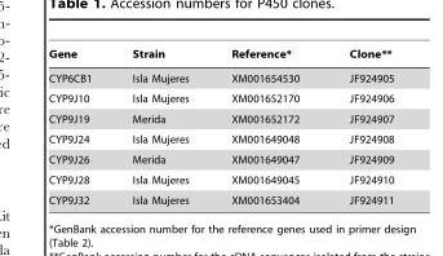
<table><thead><tr><td>Gene</td><td>Strain</td><td>Reference*</td><td>Clone**</td></tr></thead><tbody><tr><td>CYP6CB1</td><td>Isla Mujeres</td><td>XM001654530</td><td>JF924905</td></tr><tr><td>CYP9J10</td><td>Isla Mujeres</td><td>XM001652170</td><td>JF924906</td></tr><tr><td>CYP9J19</td><td>Merida</td><td>XM001652172</td><td>JF924907</td></tr><tr><td>CYP9J24</td><td>Isla Mujeres</td><td>XM001649048</td><td>JF924908</td></tr><tr><td>CYP9J26</td><td>Merida</td><td>XM001649047</td><td>JF924909</td></tr><tr><td>CYP9J28</td><td>Isla Mujeres</td><td>XM001649045</td><td>JF924910</td></tr><tr><td>CYP9J32</td><td>Isla Mujeres</td><td>XM001653404</td><td>JF924911</td></tr></tbody></table>